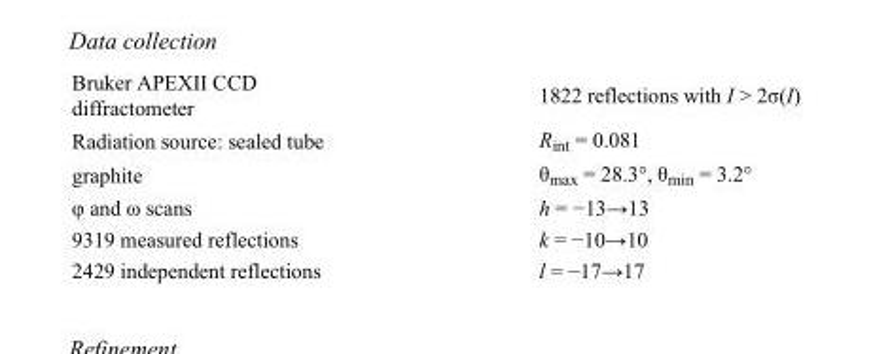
<table><tbody><tr><td>Bruker APEXII CCD diffractometer</td><td>1822 reflections with I &gt; 2σ(I)</td></tr><tr><td>Radiation source: sealed tube</td><td>R<sub>int</sub> = 0.081</td></tr><tr><td>graphite</td><td>θ<sub>max</sub> = 28.3°, θ<sub>min</sub> = 3.2°</td></tr><tr><td>φ and ω scans</td><td>h = −13→13</td></tr><tr><td>9319 measured reflections</td><td>k = −10→10</td></tr><tr><td>2429 independent reflections</td><td>l = −17→17</td></tr></tbody></table>